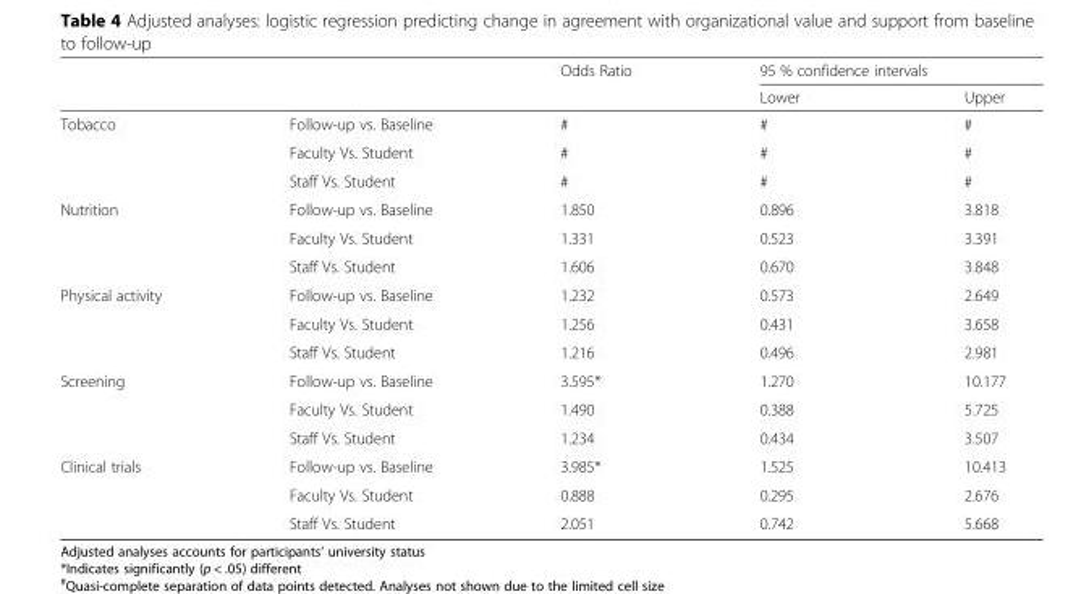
<table><thead><tr><td rowspan="2"></td><td rowspan="2"></td><td rowspan="2">Odds Ratio</td><td colspan="2">95 % confidence intervals</td></tr><tr><td>Lower</td><td>Upper</td></tr></thead><tbody><tr><td rowspan="3">Tobacco</td><td>Follow-up vs. Baseline</td><td>#</td><td>#</td><td>#</td></tr><tr><td>Faculty Vs. Student</td><td>#</td><td>#</td><td>#</td></tr><tr><td>Staff Vs. Student</td><td>#</td><td>#</td><td>#</td></tr><tr><td rowspan="3">Nutrition</td><td>Follow-up vs. Baseline</td><td>1.850</td><td>0.896</td><td>3.818</td></tr><tr><td>Faculty Vs. Student</td><td>1.331</td><td>0.523</td><td>3.391</td></tr><tr><td>Staff Vs. Student</td><td>1.606</td><td>0.670</td><td>3.848</td></tr><tr><td rowspan="3">Physical activity</td><td>Follow-up vs. Baseline</td><td>1.232</td><td>0.573</td><td>2.649</td></tr><tr><td>Faculty Vs. Student</td><td>1.256</td><td>0.431</td><td>3.658</td></tr><tr><td>Staff Vs. Student</td><td>1.216</td><td>0.496</td><td>2.981</td></tr><tr><td rowspan="3">Screening</td><td>Follow-up vs. Baseline</td><td>3.595*</td><td>1.270</td><td>10.177</td></tr><tr><td>Faculty Vs. Student</td><td>1.490</td><td>0.388</td><td>5.725</td></tr><tr><td>Staff Vs. Student</td><td>1.234</td><td>0.434</td><td>3.507</td></tr><tr><td rowspan="3">Clinical trials</td><td>Follow-up vs. Baseline</td><td>3.985*</td><td>1.525</td><td>10.413</td></tr><tr><td>Faculty Vs. Student</td><td>0.888</td><td>0.295</td><td>2.676</td></tr><tr><td>Staff Vs. Student</td><td>2.051</td><td>0.742</td><td>5.668</td></tr></tbody></table>